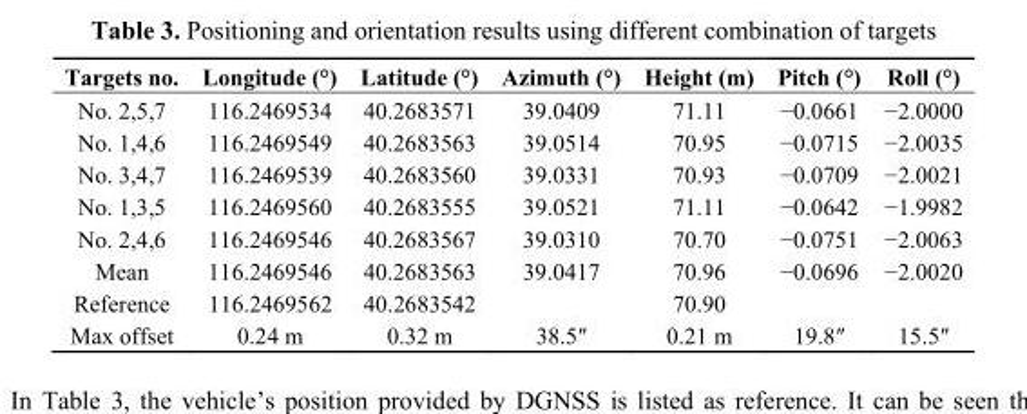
<table><thead><tr><td>Targets no.</td><td>Longitude (°)</td><td>Latitude (°)</td><td>Azimuth (°)</td><td>Height (m)</td><td>Pitch (°)</td><td>Roll (°)</td></tr></thead><tbody><tr><td>No. 2,5,7</td><td>116.2469534</td><td>40.2683571</td><td>39.0409</td><td>71.11</td><td>−0.0661</td><td>−2.0000</td></tr><tr><td>No. 1,4,6</td><td>116.2469549</td><td>40.2683563</td><td>39.0514</td><td>70.95</td><td>−0.0715</td><td>−2.0035</td></tr><tr><td>No. 3,4,7</td><td>116.2469539</td><td>40.2683560</td><td>39.0331</td><td>70.93</td><td>−0.0709</td><td>−2.0021</td></tr><tr><td>No. 1,3,5</td><td>116.2469560</td><td>40.2683555</td><td>39.0521</td><td>71.11</td><td>−0.0642</td><td>−1.9982</td></tr><tr><td>No. 2,4,6</td><td>116.2469546</td><td>40.2683567</td><td>39.0310</td><td>70.70</td><td>−0.0751</td><td>−2.0063</td></tr><tr><td>Mean</td><td>116.2469546</td><td>40.2683563</td><td>39.0417</td><td>70.96</td><td>−0.0696</td><td>−2.0020</td></tr><tr><td>Reference</td><td>116.2469562</td><td>40.2683542</td><td></td><td>70.90</td><td></td><td></td></tr><tr><td>Max offset</td><td>0.24 m</td><td>0.32 m</td><td>38.5″</td><td>0.21 m</td><td>19.8″</td><td>15.5″</td></tr></tbody></table>